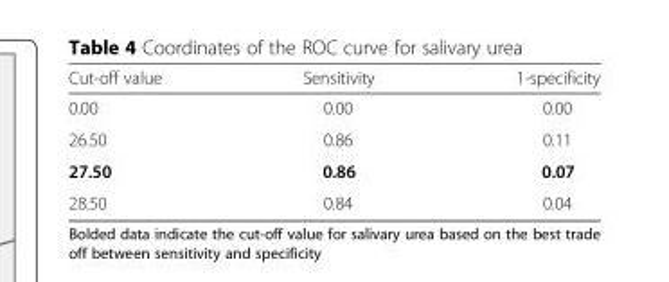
<table><thead><tr><td>Cut-off value</td><td>Sensitivity</td><td>1-specificity</td></tr></thead><tbody><tr><td>0.00</td><td>0.00</td><td>0.00</td></tr><tr><td>26.50</td><td>0.86</td><td>0.11</td></tr><tr><td>27.50</td><td>0.86</td><td>0.07</td></tr><tr><td>28.50</td><td>0.84</td><td>0.04</td></tr></tbody></table>